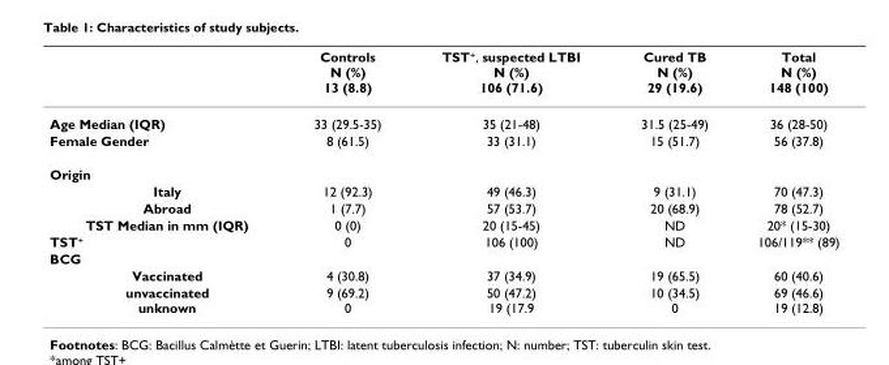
<table><thead><tr><td></td><td>Controls N (%) 13 (8.8)</td><td>TST<sup>+</sup>, suspected LTBI N (%) 106 (71.6)</td><td>Cured TB N (%) 29 (19.6)</td><td>Total N (%) 148 (100)</td></tr></thead><tbody><tr><td>Age Median (IQR)</td><td>33 (29.5-35)</td><td>35 (21-48)</td><td>31.5 (25-49)</td><td>36 (28-50)</td></tr><tr><td>Female Gender</td><td>8 (61.5)</td><td>33 (31.1)</td><td>15 (51.7)</td><td>56 (37.8)</td></tr><tr><td colspan="5">Origin</td></tr><tr><td>Italy</td><td>12 (92.3)</td><td>49 (46.3)</td><td>9 (31.1)</td><td>70 (47.3)</td></tr><tr><td>Abroad</td><td>1 (7.7)</td><td>57 (53.7)</td><td>20 (68.9)</td><td>78 (52.7)</td></tr><tr><td>TST Median in mm (IQR)</td><td>0 (0)</td><td>20 (15-45)</td><td>ND</td><td>20* (15-30)</td></tr><tr><td>TST<sup>+</sup></td><td>0</td><td>106 (100)</td><td>ND</td><td>106/119** (89)</td></tr><tr><td colspan="5">BCG</td></tr><tr><td>Vaccinated</td><td>4 (30.8)</td><td>37 (34.9)</td><td>19 (65.5)</td><td>60 (40.6)</td></tr><tr><td>unvaccinated unknown</td><td>9 (69.2) 0</td><td>50 (47.2) 19 (17.9</td><td>10 (34.5) 0</td><td>69 (46.6) 19 (12.8)</td></tr></tbody></table>